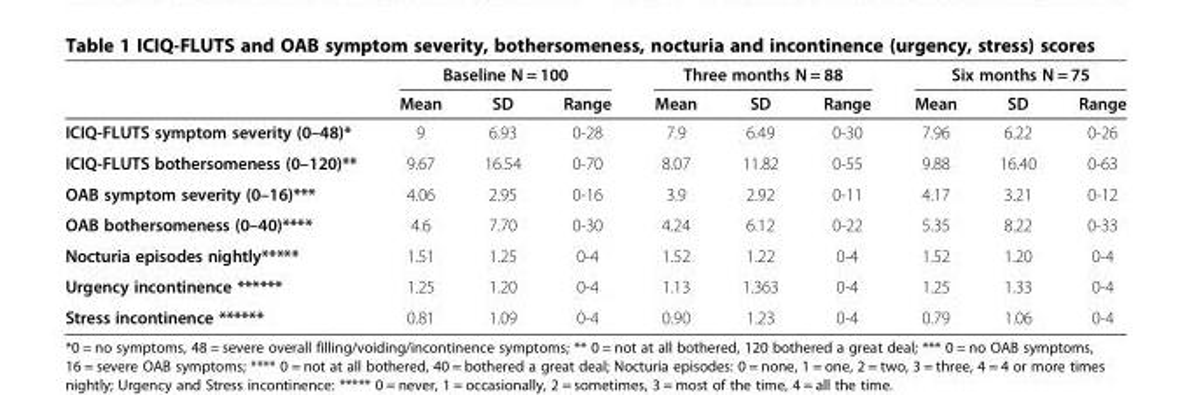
<table><thead><tr><td rowspan="2"></td><td colspan="3">Baseline N = 100</td><td colspan="3">Three months N = 88</td><td colspan="3">Six months N = 75</td></tr><tr><td>Mean</td><td>SD</td><td>Range</td><td>Mean</td><td>SD</td><td>Range</td><td>Mean</td><td>SD</td><td>Range</td></tr></thead><tbody><tr><td>ICIQ-FLUTS symptom severity (0–48)*</td><td>9</td><td>6.93</td><td>0-28</td><td>7.9</td><td>6.49</td><td>0-30</td><td>7.96</td><td>6.22</td><td>0-26</td></tr><tr><td>ICIQ-FLUTS bothersomeness (0–120)**</td><td>9.67</td><td>16.54</td><td>0-70</td><td>8.07</td><td>11.82</td><td>0-55</td><td>9.88</td><td>16.40</td><td>0-63</td></tr><tr><td>OAB symptom severity (0–16)***</td><td>4.06</td><td>2.95</td><td>0-16</td><td>3.9</td><td>2.92</td><td>0-11</td><td>4.17</td><td>3.21</td><td>0-12</td></tr><tr><td>OAB bothersomeness (0–40)****</td><td>4.6</td><td>7.70</td><td>0-30</td><td>4.24</td><td>6.12</td><td>0-22</td><td>5.35</td><td>8.22</td><td>0-33</td></tr><tr><td>Nocturia episodes nightly*****</td><td>1.51</td><td>1.25</td><td>0-4</td><td>1.52</td><td>1.22</td><td>0-4</td><td>1.52</td><td>1.20</td><td>0-4</td></tr><tr><td>Urgency incontinence ******</td><td>1.25</td><td>1.20</td><td>0-4</td><td>1.13</td><td>1.363</td><td>0-4</td><td>1.25</td><td>1.33</td><td>0-4</td></tr><tr><td>Stress incontinence ******</td><td>0.81</td><td>1.09</td><td>0-4</td><td>0.90</td><td>1.23</td><td>0-4</td><td>0.79</td><td>1.06</td><td>0-4</td></tr></tbody></table>